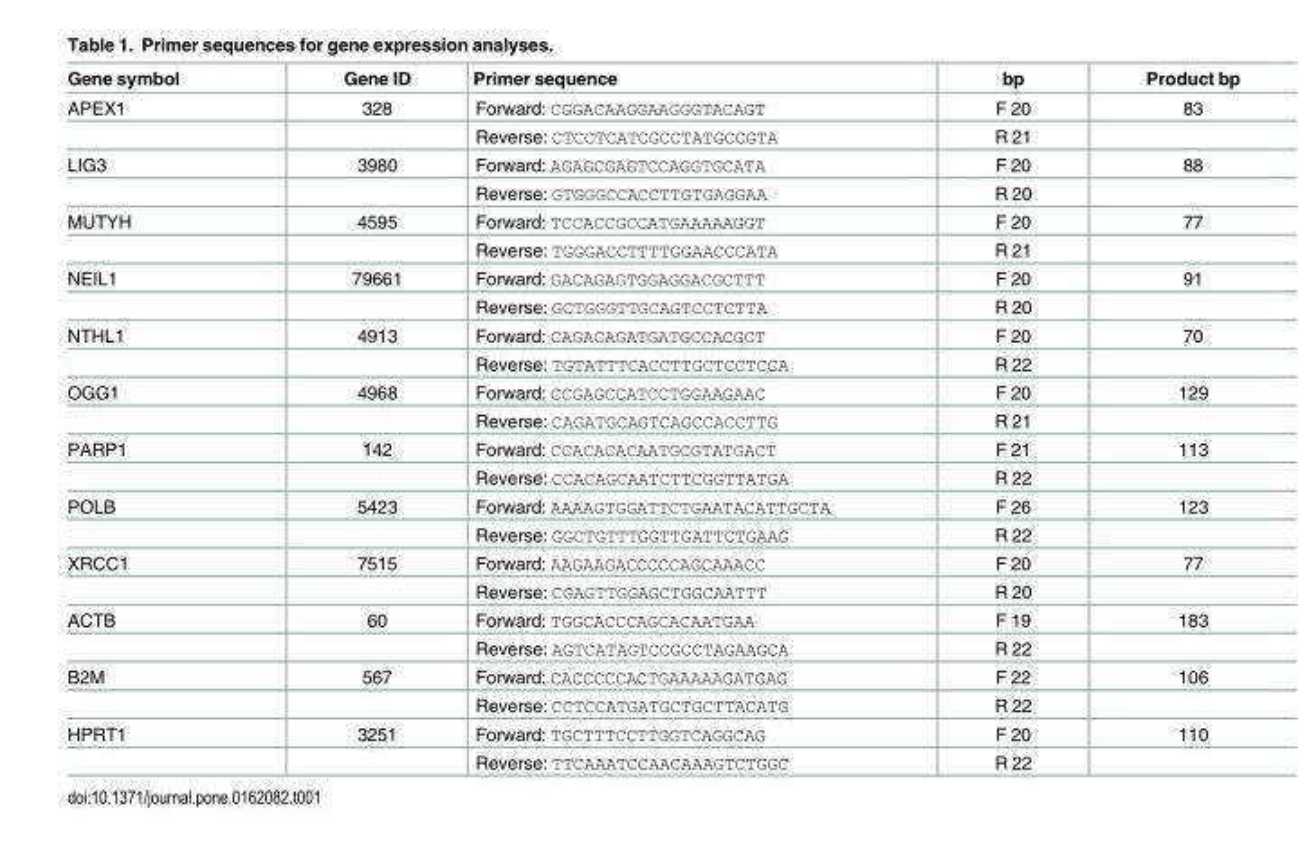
<table><thead><tr><td>Gene symbol</td><td>Gene ID</td><td>Primer sequence</td><td>bp</td><td>Product bp</td></tr></thead><tbody><tr><td rowspan="2">APEX1</td><td>328</td><td>Forward: CGGACAAGGAAGGGTACAGT</td><td>F 20</td><td>83</td></tr><tr><td></td><td>Reverse: CTCCTCATCGCCTATGCCGTA</td><td>R 21</td><td></td></tr><tr><td rowspan="2">LIG3</td><td>3980</td><td>Forward: AGAGCGAGTCCAGGTGCATA</td><td>F 20</td><td>88</td></tr><tr><td></td><td>Reverse: GTGGGCCACCTTGTGAGGAA</td><td>R 20</td><td></td></tr><tr><td rowspan="2">MUTYH</td><td>4595</td><td>Forward: TCCACCGCCATGAAAAAGGT</td><td>F 20</td><td>77</td></tr><tr><td></td><td>Reverse: TGGGACCTTTTGGAACCCATA</td><td>R 21</td><td></td></tr><tr><td rowspan="2">NEIL1</td><td>79661</td><td>Forward: GACAGAGTGGAGGACGCTTT</td><td>F 20</td><td>91</td></tr><tr><td></td><td>Reverse: GCTGGGTTGCAGTCCTCTTA</td><td>R 20</td><td></td></tr><tr><td rowspan="2">NTHL1</td><td>4913</td><td>Forward: CAGACAGATGATGCCACGCT</td><td>F 20</td><td>70</td></tr><tr><td></td><td>Reverse: TGTATTTCACCTTGCTCCTCCA</td><td>R 22</td><td></td></tr><tr><td rowspan="2">OGG1</td><td>4968</td><td>Forward: CCGAGCCATCCTGGAAGAAC</td><td>F 20</td><td>129</td></tr><tr><td></td><td>Reverse: CAGATGCAGTCAGCCACCTTG</td><td>R 21</td><td></td></tr><tr><td rowspan="2">PARP1</td><td>142</td><td>Forward: CCACACACAATGCGTATGACT</td><td>F 21</td><td>113</td></tr><tr><td></td><td>Reverse: CCACAGCAATCTTCGGTTATGA</td><td>R 22</td><td></td></tr><tr><td rowspan="2">POLB</td><td>5423</td><td>Forward: AAAAGTGGATTCTGAATACATTGCTA</td><td>F 26</td><td>123</td></tr><tr><td></td><td>Reverse: GGCTGTTTGGTTGATTCTGAAG</td><td>R 22</td><td></td></tr><tr><td rowspan="2">XRCC1</td><td>7515</td><td>Forward: AAGAAGACCCCCAGCAAACC</td><td>F 20</td><td>77</td></tr><tr><td></td><td>Reverse: CGAGTTGGAGCTGGCAATTT</td><td>R 20</td><td></td></tr><tr><td rowspan="2">ACTB</td><td>60</td><td>Forward: TGGCACCCAGCACAATGAA</td><td>F 19</td><td>183</td></tr><tr><td></td><td>Reverse: AGTCATAGTCCGCCTAGAAGCA</td><td>R 22</td><td></td></tr><tr><td rowspan="2">B2M</td><td>567</td><td>Forward: CACCCCCACTGAAAAAGATGAG</td><td>F 22</td><td>106</td></tr><tr><td></td><td>Reverse: CCTCCATGATGCTGCTTACATG</td><td>R 22</td><td></td></tr><tr><td rowspan="2">HPRT1</td><td>3251</td><td>Forward: TGCTTTCCTTGGTCAGGCAG</td><td>F 20</td><td>110</td></tr><tr><td></td><td>Reverse: TTCAAATCCAACAAAGTCTGGC</td><td>R 22</td><td></td></tr></tbody></table>